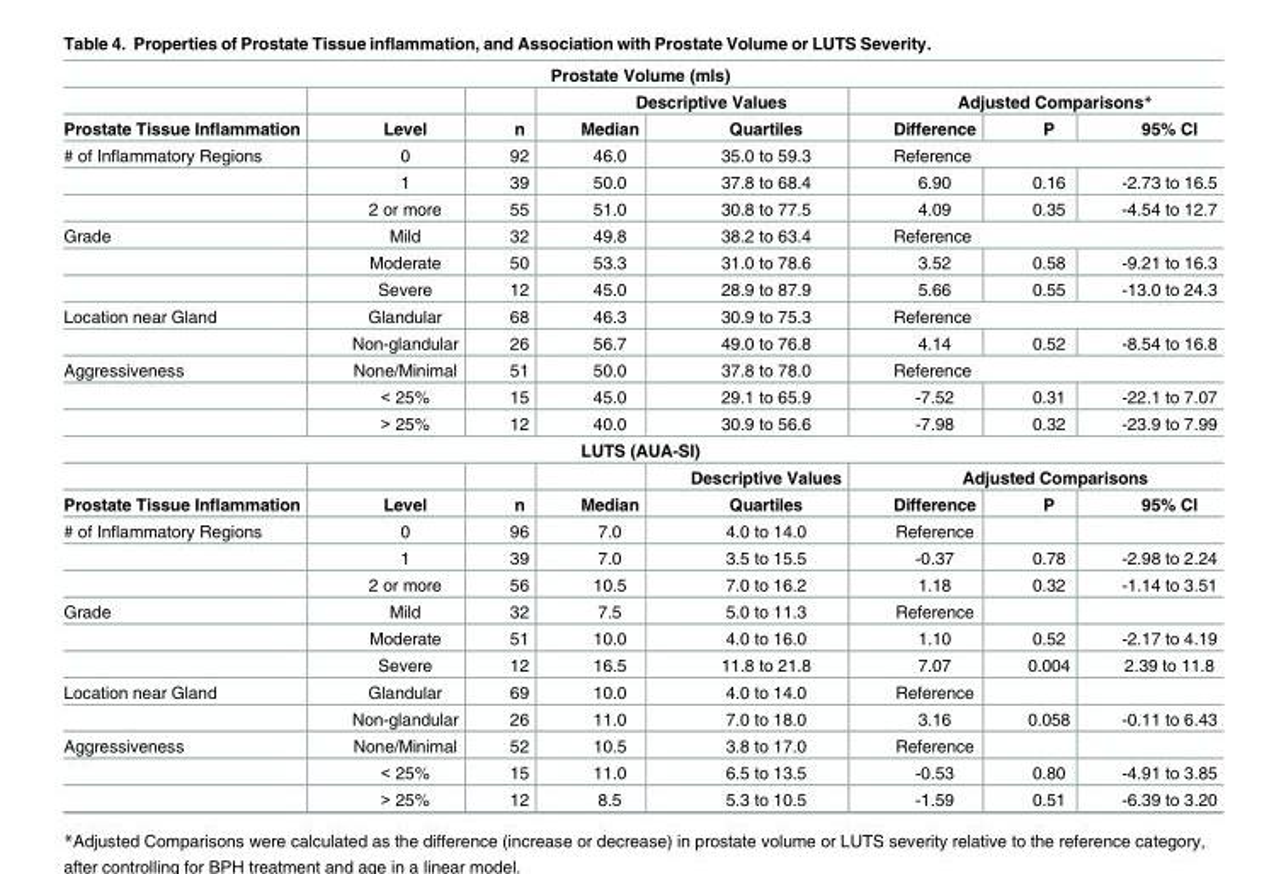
<table><tbody><tr><td colspan="8">Prostate Volume (mls)</td></tr><tr><td></td><td></td><td></td><td colspan="2">Descriptive Values</td><td colspan="3">Adjusted Comparisons*</td></tr><tr><td>Prostate Tissue Inflammation</td><td>Level</td><td>n</td><td>Median</td><td>Quartiles</td><td>Difference</td><td>P</td><td>95% CI</td></tr><tr><td rowspan="3"># of Inflammatory Regions</td><td>0</td><td>92</td><td>46.0</td><td>35.0 to 59.3</td><td colspan="3">Reference</td></tr><tr><td>1</td><td>39</td><td>50.0</td><td>37.8 to 68.4</td><td>6.90</td><td>0.16</td><td>-2.73 to 16.5</td></tr><tr><td>2 or more</td><td>55</td><td>51.0</td><td>30.8 to 77.5</td><td>4.09</td><td>0.35</td><td>-4.54 to 12.7</td></tr><tr><td rowspan="3">Grade</td><td>Mild</td><td>32</td><td>49.8</td><td>38.2 to 63.4</td><td colspan="3">Reference</td></tr><tr><td>Moderate</td><td>50</td><td>53.3</td><td>31.0 to 78.6</td><td>3.52</td><td>0.58</td><td>-9.21 to 16.3</td></tr><tr><td>Severe</td><td>12</td><td>45.0</td><td>28.9 to 87.9</td><td>5.66</td><td>0.55</td><td>-13.0 to 24.3</td></tr><tr><td rowspan="2">Location near Gland</td><td>Glandular</td><td>68</td><td>46.3</td><td>30.9 to 75.3</td><td colspan="3">Reference</td></tr><tr><td>Non-glandular</td><td>26</td><td>56.7</td><td>49.0 to 76.8</td><td>4.14</td><td>0.52</td><td>-8.54 to 16.8</td></tr><tr><td rowspan="3">Aggressiveness</td><td>None/Minimal</td><td>51</td><td>50.0</td><td>37.8 to 78.0</td><td colspan="3">Reference</td></tr><tr><td>&lt; 25%</td><td>15</td><td>45.0</td><td>29.1 to 65.9</td><td>-7.52</td><td>0.31</td><td>-22.1 to 7.07</td></tr><tr><td>&gt; 25%</td><td>12</td><td>40.0</td><td>30.9 to 56.6</td><td>-7.98</td><td>0.32</td><td>-23.9 to 7.99</td></tr><tr><td colspan="8">LUTS (AUA-SI)</td></tr><tr><td></td><td></td><td></td><td></td><td>Descriptive Values</td><td colspan="3">Adjusted Comparisons</td></tr><tr><td>Prostate Tissue Inflammation</td><td>Level</td><td>n</td><td>Median</td><td>Quartiles</td><td>Difference</td><td>P</td><td>95% CI</td></tr><tr><td rowspan="3"># of Inflammatory Regions</td><td>0</td><td>96</td><td>7.0</td><td>4.0 to 14.0</td><td>Reference</td><td></td><td></td></tr><tr><td>1</td><td>39</td><td>7.0</td><td>3.5 to 15.5</td><td>-0.37</td><td>0.78</td><td>-2.98 to 2.24</td></tr><tr><td>2 or more</td><td>56</td><td>10.5</td><td>7.0 to 16.2</td><td>1.18</td><td>0.32</td><td>-1.14 to 3.51</td></tr><tr><td rowspan="3">Grade</td><td>Mild</td><td>32</td><td>7.5</td><td>5.0 to 11.3</td><td>Reference</td><td></td><td></td></tr><tr><td>Moderate</td><td>51</td><td>10.0</td><td>4.0 to 16.0</td><td>1.10</td><td>0.52</td><td>-2.17 to 4.19</td></tr><tr><td>Severe</td><td>12</td><td>16.5</td><td>11.8 to 21.8</td><td>7.07</td><td>0.004</td><td>2.39 to 11.8</td></tr><tr><td rowspan="2">Location near Gland</td><td>Glandular</td><td>69</td><td>10.0</td><td>4.0 to 14.0</td><td>Reference</td><td></td><td></td></tr><tr><td>Non-glandular</td><td>26</td><td>11.0</td><td>7.0 to 18.0</td><td>3.16</td><td>0.058</td><td>-0.11 to 6.43</td></tr><tr><td rowspan="3">Aggressiveness</td><td>None/Minimal</td><td>52</td><td>10.5</td><td>3.8 to 17.0</td><td>Reference</td><td></td><td></td></tr><tr><td>&lt; 25%</td><td>15</td><td>11.0</td><td>6.5 to 13.5</td><td>-0.53</td><td>0.80</td><td>-4.91 to 3.85</td></tr><tr><td>&gt; 25%</td><td>12</td><td>8.5</td><td>5.3 to 10.5</td><td>-1.59</td><td>0.51</td><td>-6.39 to 3.20</td></tr></tbody></table>